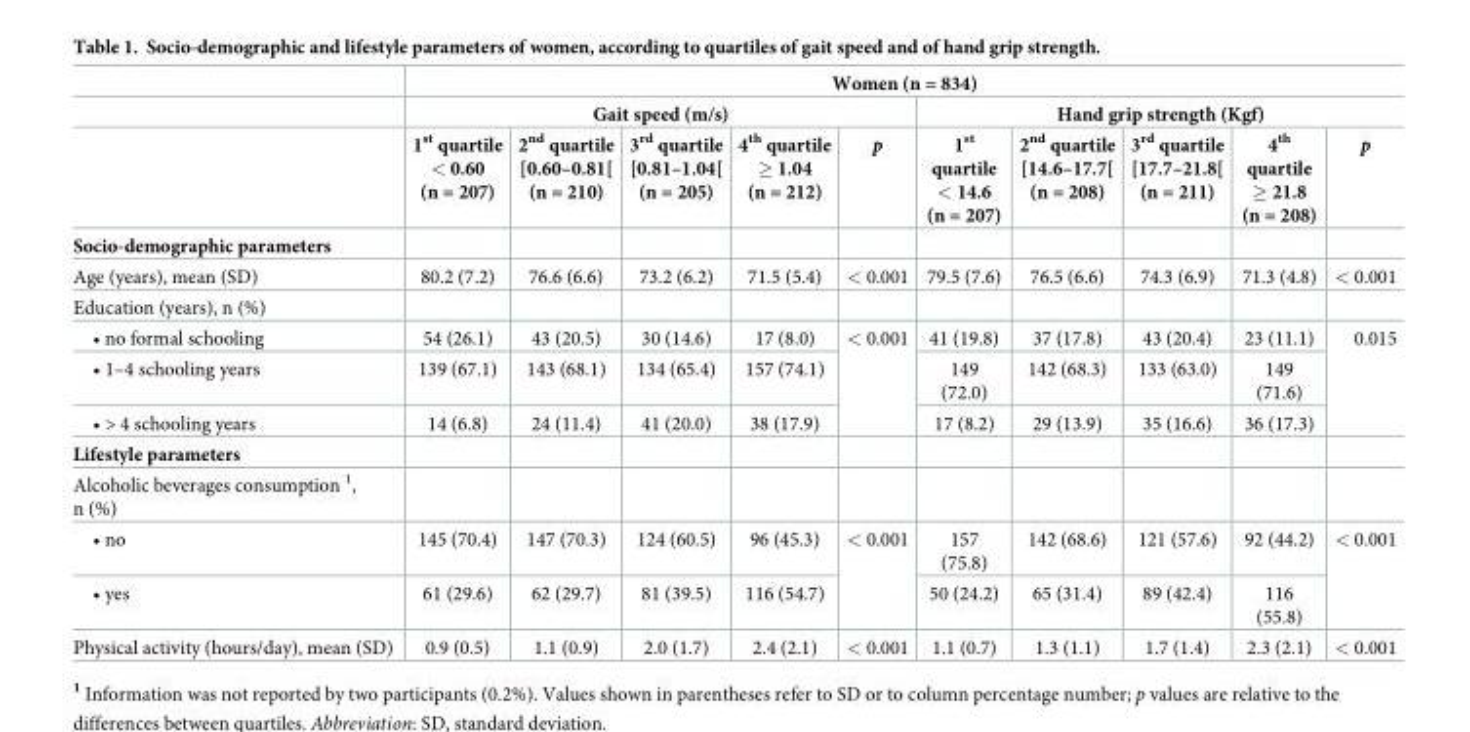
<table><thead><tr><td rowspan="3"></td><td colspan="10">Women (n = 834)</td></tr><tr><td colspan="5">Gait speed (m/s)</td><td colspan="5">Hand grip strength (Kgf)</td></tr><tr><td>1<sup>st</sup> quartile &lt; 0.60 (n = 207)</td><td>2<sup>nd</sup> quartile [0.60–0.81[ (n = 210)</td><td>3<sup>rd</sup> quartile [0.81–1.04[ (n = 205)</td><td>4<sup>th</sup> quartile ≥ 1.04 (n = 212)</td><td>p</td><td>1<sup>st</sup> quartile &lt; 14.6 (n = 207)</td><td>2<sup>nd</sup> quartile [14.6–17.7[ (n = 208)</td><td>3<sup>rd</sup> quartile [17.7–21.8[ (n = 211)</td><td>4<sup>th</sup> quartile ≥ 21.8 (n = 208)</td><td>p</td></tr></thead><tbody><tr><td colspan="11">Socio-demographic parameters</td></tr><tr><td>Age (years), mean (SD)</td><td>80.2 (7.2)</td><td>76.6 (6.6)</td><td>73.2 (6.2)</td><td>71.5 (5.4)</td><td>&lt; 0.001</td><td>79.5 (7.6)</td><td>76.5 (6.6)</td><td>74.3 (6.9)</td><td>71.3 (4.8)</td><td>&lt; 0.001</td></tr><tr><td colspan="11">Education (years), n (%)</td></tr><tr><td>• no formal schooling</td><td>54 (26.1)</td><td>43 (20.5)</td><td>30 (14.6)</td><td>17 (8.0)</td><td rowspan="3">&lt; 0.001</td><td>41 (19.8)</td><td>37 (17.8)</td><td>43 (20.4)</td><td>23 (11.1)</td><td rowspan="3">0.015</td></tr><tr><td>• 1–4 schooling years</td><td>139 (67.1)</td><td>143 (68.1)</td><td>134 (65.4)</td><td>157 (74.1)</td><td>149 (72.0)</td><td>142 (68.3)</td><td>133 (63.0)</td><td>149 (71.6)</td></tr><tr><td>• &gt; 4 schooling years</td><td>14 (6.8)</td><td>24 (11.4)</td><td>41 (20.0)</td><td>38 (17.9)</td><td>17 (8.2)</td><td>29 (13.9)</td><td>35 (16.6)</td><td>36 (17.3)</td></tr><tr><td colspan="11">Lifestyle parameters</td></tr><tr><td colspan="11">Alcoholic beverages consumption <sup>1</sup>, n (%)</td></tr><tr><td>• no</td><td>145 (70.4)</td><td>147 (70.3)</td><td>124 (60.5)</td><td>96 (45.3)</td><td rowspan="2">&lt; 0.001</td><td>157 (75.8)</td><td>142 (68.6)</td><td>121 (57.6)</td><td>92 (44.2)</td><td rowspan="2">&lt; 0.001</td></tr><tr><td>• yes</td><td>61 (29.6)</td><td>62 (29.7)</td><td>81 (39.5)</td><td>116 (54.7)</td><td>50 (24.2)</td><td>65 (31.4)</td><td>89 (42.4)</td><td>116 (55.8)</td></tr><tr><td>Physical activity (hours/day), mean (SD)</td><td>0.9 (0.5)</td><td>1.1 (0.9)</td><td>2.0 (1.7)</td><td>2.4 (2.1)</td><td>&lt; 0.001</td><td>1.1 (0.7)</td><td>1.3 (1.1)</td><td>1.7 (1.4)</td><td>2.3 (2.1)</td><td>&lt; 0.001</td></tr></tbody></table>